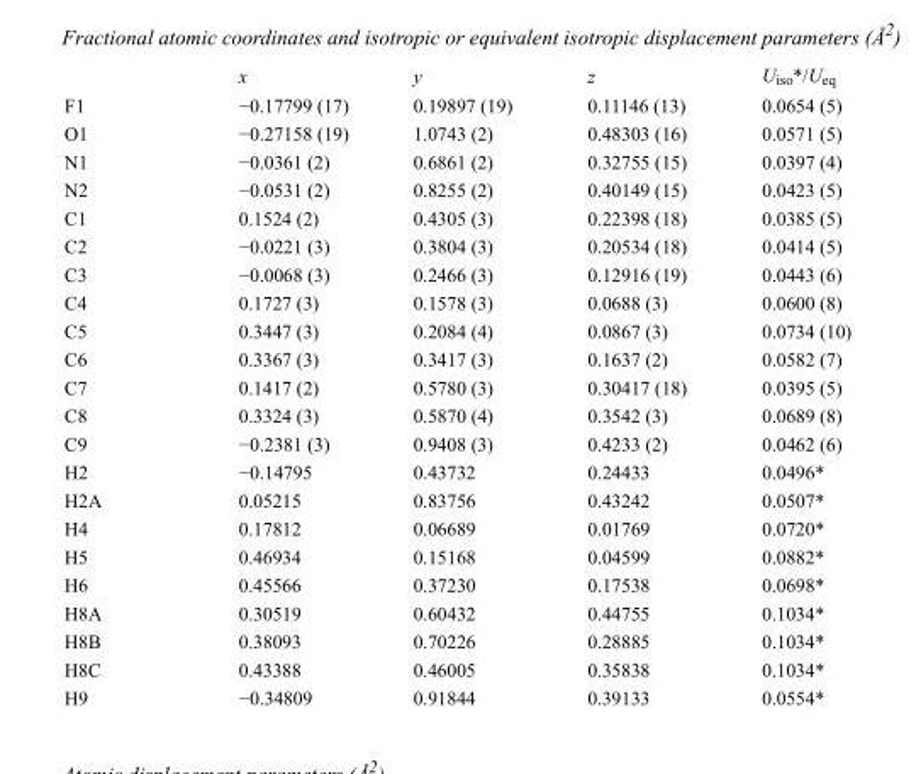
<table><thead><tr><td></td><td>x</td><td>y</td><td>z</td><td>U<sub>iso</sub>*/U<sub>eq</sub></td></tr></thead><tbody><tr><td>F1</td><td>−0.17799 (17)</td><td>0.19897 (19)</td><td>0.11146 (13)</td><td>0.0654 (5)</td></tr><tr><td>O1</td><td>−0.27158 (19)</td><td>1.0743 (2)</td><td>0.48303 (16)</td><td>0.0571 (5)</td></tr><tr><td>N1</td><td>−0.0361 (2)</td><td>0.6861 (2)</td><td>0.32755 (15)</td><td>0.0397 (4)</td></tr><tr><td>N2</td><td>−0.0531 (2)</td><td>0.8255 (2)</td><td>0.40149 (15)</td><td>0.0423 (5)</td></tr><tr><td>C1</td><td>0.1524 (2)</td><td>0.4305 (3)</td><td>0.22398 (18)</td><td>0.0385 (5)</td></tr><tr><td>C2</td><td>−0.0221 (3)</td><td>0.3804 (3)</td><td>0.20534 (18)</td><td>0.0414 (5)</td></tr><tr><td>C3</td><td>−0.0068 (3)</td><td>0.2466 (3)</td><td>0.12916 (19)</td><td>0.0443 (6)</td></tr><tr><td>C4</td><td>0.1727 (3)</td><td>0.1578 (3)</td><td>0.0688 (3)</td><td>0.0600 (8)</td></tr><tr><td>C5</td><td>0.3447 (3)</td><td>0.2084 (4)</td><td>0.0867 (3)</td><td>0.0734 (10)</td></tr><tr><td>C6</td><td>0.3367 (3)</td><td>0.3417 (3)</td><td>0.1637 (2)</td><td>0.0582 (7)</td></tr><tr><td>C7</td><td>0.1417 (2)</td><td>0.5780 (3)</td><td>0.30417 (18)</td><td>0.0395 (5)</td></tr><tr><td>C8</td><td>0.3324 (3)</td><td>0.5870 (4)</td><td>0.3542 (3)</td><td>0.0689 (8)</td></tr><tr><td>C9</td><td>−0.2381 (3)</td><td>0.9408 (3)</td><td>0.4233 (2)</td><td>0.0462 (6)</td></tr><tr><td>H2</td><td>−0.14795</td><td>0.43732</td><td>0.24433</td><td>0.0496*</td></tr><tr><td>H2A</td><td>0.05215</td><td>0.83756</td><td>0.43242</td><td>0.0507*</td></tr><tr><td>H4</td><td>0.17812</td><td>0.06689</td><td>0.01769</td><td>0.0720*</td></tr><tr><td>H5</td><td>0.46934</td><td>0.15168</td><td>0.04599</td><td>0.0882*</td></tr><tr><td>H6</td><td>0.45566</td><td>0.37230</td><td>0.17538</td><td>0.0698*</td></tr><tr><td>H8A</td><td>0.30519</td><td>0.60432</td><td>0.44755</td><td>0.1034*</td></tr><tr><td>H8B</td><td>0.38093</td><td>0.70226</td><td>0.28885</td><td>0.1034*</td></tr><tr><td>H8C</td><td>0.43388</td><td>0.46005</td><td>0.35838</td><td>0.1034*</td></tr><tr><td>H9</td><td>−0.34809</td><td>0.91844</td><td>0.39133</td><td>0.0554*</td></tr></tbody></table>